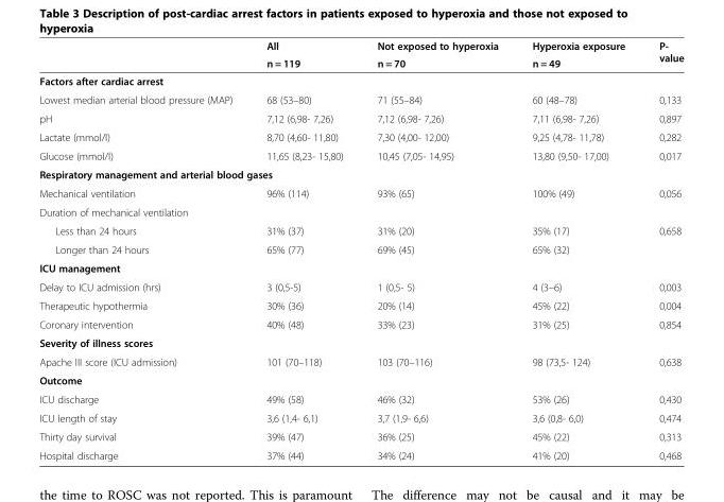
<table><thead><tr><td rowspan="2"></td><td rowspan="2">All n = 119</td><td rowspan="2">Not exposed to hyperoxia n = 70</td><td rowspan="2">Hyperoxia exposure n = 49</td><td rowspan="2">P- value</td></tr><tr></tr></thead><tbody><tr><td colspan="5">Factors after cardiac arrest</td></tr><tr><td>Lowest median arterial blood pressure (MAP)</td><td>68 (53–80)</td><td>71 (55–84)</td><td>60 (48–78)</td><td>0,133</td></tr><tr><td>pH</td><td>7,12 (6,98- 7,26)</td><td>7,12 (6,98- 7,26)</td><td>7,11 (6,98- 7,26)</td><td>0,897</td></tr><tr><td>Lactate (mmol/l)</td><td>8,70 (4,60- 11,80)</td><td>7,30 (4,00- 12,00)</td><td>9,25 (4,78- 11,78)</td><td>0,282</td></tr><tr><td>Glucose (mmol/l)</td><td>11,65 (8,23- 15,80)</td><td>10,45 (7,05- 14,95)</td><td>13,80 (9,50- 17,00)</td><td>0,017</td></tr><tr><td colspan="5">Respiratory management and arterial blood gases</td></tr><tr><td>Mechanical ventilation</td><td>96% (114)</td><td>93% (65)</td><td>100% (49)</td><td>0,056</td></tr><tr><td colspan="5">Duration of mechanical ventilation</td></tr><tr><td>Less than 24 hours</td><td>31% (37)</td><td>31% (20)</td><td>35% (17)</td><td>0,658</td></tr><tr><td>Longer than 24 hours</td><td>65% (77)</td><td>69% (45)</td><td>65% (32)</td><td></td></tr><tr><td colspan="5">ICU management</td></tr><tr><td>Delay to ICU admission (hrs)</td><td>3 (0,5-5)</td><td>1 (0,5- 5)</td><td>4 (3–6)</td><td>0,003</td></tr><tr><td>Therapeutic hypothermia</td><td>30% (36)</td><td>20% (14)</td><td>45% (22)</td><td>0,004</td></tr><tr><td>Coronary intervention</td><td>40% (48)</td><td>33% (23)</td><td>31% (25)</td><td>0,854</td></tr><tr><td colspan="5">Severity of illness scores</td></tr><tr><td>Apache III score (ICU admission)</td><td>101 (70–118)</td><td>103 (70–116)</td><td>98 (73,5- 124)</td><td>0,638</td></tr><tr><td colspan="5">Outcome</td></tr><tr><td>ICU discharge</td><td>49% (58)</td><td>46% (32)</td><td>53% (26)</td><td>0,430</td></tr><tr><td>ICU length of stay</td><td>3,6 (1,4- 6,1)</td><td>3,7 (1,9- 6,6)</td><td>3,6 (0,8- 6,0)</td><td>0,474</td></tr><tr><td>Thirty day survival</td><td>39% (47)</td><td>36% (25)</td><td>45% (22)</td><td>0,313</td></tr><tr><td>Hospital discharge</td><td>37% (44)</td><td>34% (24)</td><td>41% (20)</td><td>0,468</td></tr></tbody></table>